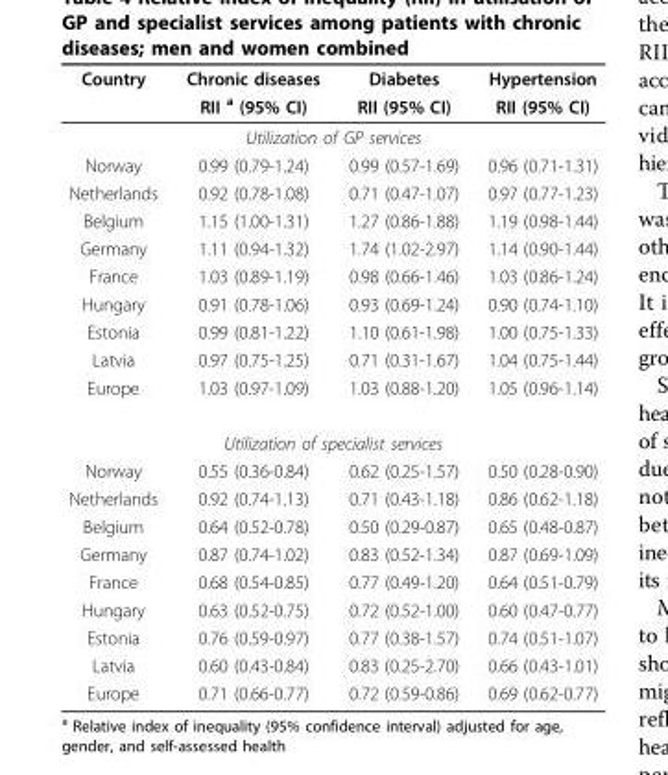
<table><thead><tr><td rowspan="2">Country</td><td rowspan="2">Chronic diseases RII <sup>a</sup> (95% CI)</td><td rowspan="2">Diabetes RII (95% CI)</td><td rowspan="2">Hypertension RII (95% CI)</td></tr><tr></tr></thead><tbody><tr><td colspan="4">Utilization of GP services</td></tr><tr><td>Norway</td><td>0.99 (0.79-1.24)</td><td>0.99 (0.57-1.69)</td><td>0.96 (0.71-1.31)</td></tr><tr><td>Netherlands</td><td>0.92 (0.78-1.08)</td><td>0.71 (0.47-1.07)</td><td>0.97 (0.77-1.23)</td></tr><tr><td>Belgium</td><td>1.15 (1.00-1.31)</td><td>1.27 (0.86-1.88)</td><td>1.19 (0.98-1.44)</td></tr><tr><td>Germany</td><td>1.11 (0.94-1.32)</td><td>1.74 (1.02-2.97)</td><td>1.14 (0.90-1.44)</td></tr><tr><td>France</td><td>1.03 (0.89-1.19)</td><td>0.98 (0.66-1.46)</td><td>1.03 (0.86-1.24)</td></tr><tr><td>Hungary</td><td>0.91 (0.78-1.06)</td><td>0.93 (0.69-1.24)</td><td>0.90 (0.74-1.10)</td></tr><tr><td>Estonia</td><td>0.99 (0.81-1.22)</td><td>1.10 (0.61-1.98)</td><td>1.00 (0.75-1.33)</td></tr><tr><td>Latvia</td><td>0.97 (0.75-1.25)</td><td>0.71 (0.31-1.67)</td><td>1.04 (0.75-1.44)</td></tr><tr><td>Europe</td><td>1.03 (0.97-1.09)</td><td>1.03 (0.88-1.20)</td><td>1.05 (0.96-1.14)</td></tr><tr><td colspan="4">Utilization of specialist services</td></tr><tr><td>Norway</td><td>0.55 (0.36-0.84)</td><td>0.62 (0.25-1.57)</td><td>0.50 (0.28-0.90)</td></tr><tr><td>Netherlands</td><td>0.92 (0.74-1.13)</td><td>0.71 (0.43-1.18)</td><td>0.86 (0.62-1.18)</td></tr><tr><td>Belgium</td><td>0.64 (0.52-0.78)</td><td>0.50 (0.29-0.87)</td><td>0.65 (0.48-0.87)</td></tr><tr><td>Germany</td><td>0.87 (0.74-1.02)</td><td>0.83 (0.52-1.34)</td><td>0.87 (0.69-1.09)</td></tr><tr><td>France</td><td>0.68 (0.54-0.85)</td><td>0.77 (0.49-1.20)</td><td>0.64 (0.51-0.79)</td></tr><tr><td>Hungary</td><td>0.63 (0.52-0.75)</td><td>0.72 (0.52-1.00)</td><td>0.60 (0.47-0.77)</td></tr><tr><td>Estonia</td><td>0.76 (0.59-0.97)</td><td>0.77 (0.38-1.57)</td><td>0.74 (0.51-1.07)</td></tr><tr><td>Latvia</td><td>0.60 (0.43-0.84)</td><td>0.83 (0.25-2.70)</td><td>0.66 (0.43-1.01)</td></tr><tr><td>Europe</td><td>0.71 (0.66-0.77)</td><td>0.72 (0.59-0.86)</td><td>0.69 (0.62-0.77)</td></tr></tbody></table>